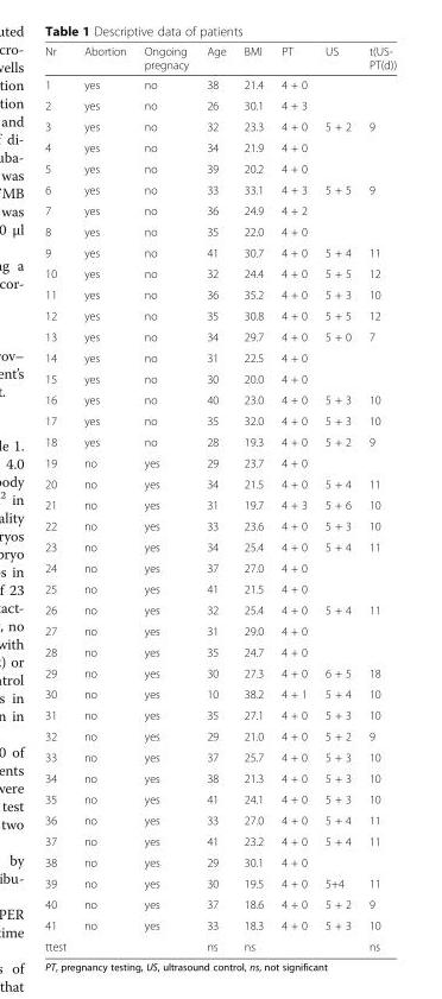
<table><thead><tr><td>Nr</td><td>Abortion</td><td>Ongoing pregnacy</td><td>Age</td><td>BMI</td><td>PT</td><td>US</td><td>t(US- PT(d))</td></tr></thead><tbody><tr><td>1</td><td>yes</td><td>no</td><td>38</td><td>21.4</td><td>4 + 0</td><td></td><td></td></tr><tr><td>2</td><td>yes</td><td>no</td><td>26</td><td>30.1</td><td>4 + 3</td><td></td><td></td></tr><tr><td>3</td><td>yes</td><td>no</td><td>32</td><td>23.3</td><td>4 + 0</td><td>5 + 2</td><td>9</td></tr><tr><td>4</td><td>yes</td><td>no</td><td>34</td><td>21.9</td><td>4 + 0</td><td></td><td></td></tr><tr><td>5</td><td>yes</td><td>no</td><td>39</td><td>20.2</td><td>4 + 0</td><td></td><td></td></tr><tr><td>6</td><td>yes</td><td>no</td><td>33</td><td>33.1</td><td>4 + 3</td><td>5 + 5</td><td>9</td></tr><tr><td>7</td><td>yes</td><td>no</td><td>36</td><td>24.9</td><td>4 + 2</td><td></td><td></td></tr><tr><td>8</td><td>yes</td><td>no</td><td>35</td><td>22.0</td><td>4 + 0</td><td></td><td></td></tr><tr><td>9</td><td>yes</td><td>no</td><td>41</td><td>30.7</td><td>4 + 0</td><td>5 + 4</td><td>11</td></tr><tr><td>10</td><td>yes</td><td>no</td><td>32</td><td>24.4</td><td>4 + 0</td><td>5 + 5</td><td>12</td></tr><tr><td>11</td><td>yes</td><td>no</td><td>36</td><td>35.2</td><td>4 + 0</td><td>5 + 3</td><td>10</td></tr><tr><td>12</td><td>yes</td><td>no</td><td>35</td><td>30.8</td><td>4 + 0</td><td>5 + 5</td><td>12</td></tr><tr><td>13</td><td>yes</td><td>no</td><td>34</td><td>29.7</td><td>4 + 0</td><td>5 + 0</td><td>7</td></tr><tr><td>14</td><td>yes</td><td>no</td><td>31</td><td>22.5</td><td>4 + 0</td><td></td><td></td></tr><tr><td>15</td><td>yes</td><td>no</td><td>30</td><td>20.0</td><td>4 + 0</td><td></td><td></td></tr><tr><td>16</td><td>yes</td><td>no</td><td>40</td><td>23.0</td><td>4 + 0</td><td>5 + 3</td><td>10</td></tr><tr><td>17</td><td>yes</td><td>no</td><td>35</td><td>32.0</td><td>4 + 0</td><td>5 + 3</td><td>10</td></tr><tr><td>18</td><td>yes</td><td>no</td><td>28</td><td>19.3</td><td>4 + 0</td><td>5 + 2</td><td>9</td></tr><tr><td>19</td><td>no</td><td>yes</td><td>29</td><td>23.7</td><td>4 + 0</td><td></td><td></td></tr><tr><td>20</td><td>no</td><td>yes</td><td>34</td><td>21.5</td><td>4 + 0</td><td>5 + 4</td><td>11</td></tr><tr><td>21</td><td>no</td><td>yes</td><td>31</td><td>19.7</td><td>4 + 3</td><td>5 + 6</td><td>10</td></tr><tr><td>22</td><td>no</td><td>yes</td><td>33</td><td>23.6</td><td>4 + 0</td><td>5 + 3</td><td>10</td></tr><tr><td>23</td><td>no</td><td>yes</td><td>34</td><td>25.4</td><td>4 + 0</td><td>5 + 4</td><td>11</td></tr><tr><td>24</td><td>no</td><td>yes</td><td>37</td><td>27.0</td><td>4 + 0</td><td></td><td></td></tr><tr><td>25</td><td>no</td><td>yes</td><td>41</td><td>21.5</td><td>4 + 0</td><td></td><td></td></tr><tr><td>26</td><td>no</td><td>yes</td><td>32</td><td>25.4</td><td>4 + 0</td><td>5 + 4</td><td>11</td></tr><tr><td>27</td><td>no</td><td>yes</td><td>31</td><td>29.0</td><td>4 + 0</td><td></td><td></td></tr><tr><td>28</td><td>no</td><td>yes</td><td>35</td><td>24.7</td><td>4 + 0</td><td></td><td></td></tr><tr><td>29</td><td>no</td><td>yes</td><td>30</td><td>27.3</td><td>4 + 0</td><td>6 + 5</td><td>18</td></tr><tr><td>30</td><td>no</td><td>yes</td><td>10</td><td>38.2</td><td>4 + 1</td><td>5 + 4</td><td>10</td></tr><tr><td>31</td><td>no</td><td>yes</td><td>35</td><td>27.1</td><td>4 + 0</td><td>5 + 3</td><td>10</td></tr><tr><td>32</td><td>no</td><td>yes</td><td>29</td><td>21.0</td><td>4 + 0</td><td>5 + 2</td><td>9</td></tr><tr><td>33</td><td>no</td><td>yes</td><td>37</td><td>25.7</td><td>4 + 0</td><td>5 + 3</td><td>10</td></tr><tr><td>34</td><td>no</td><td>yes</td><td>38</td><td>21.3</td><td>4 + 0</td><td>5 + 3</td><td>10</td></tr><tr><td>35</td><td>no</td><td>yes</td><td>41</td><td>24.1</td><td>4 + 0</td><td>5 + 3</td><td>10</td></tr><tr><td>36</td><td>no</td><td>yes</td><td>33</td><td>27.0</td><td>4 + 0</td><td>5 + 4</td><td>11</td></tr><tr><td>37</td><td>no</td><td>yes</td><td>41</td><td>23.2</td><td>4 + 0</td><td>5 + 4</td><td>11</td></tr><tr><td>38</td><td>no</td><td>yes</td><td>29</td><td>30.1</td><td>4 + 0</td><td></td><td></td></tr><tr><td>39</td><td>no</td><td>yes</td><td>30</td><td>19.5</td><td>4 + 0</td><td>5+4</td><td>11</td></tr><tr><td>40</td><td>no</td><td>yes</td><td>37</td><td>18.6</td><td>4 + 0</td><td>5 + 2</td><td>9</td></tr><tr><td>41</td><td>no</td><td>yes</td><td>33</td><td>18.3</td><td>4 + 0</td><td>5 + 3</td><td>10</td></tr><tr><td>ttest</td><td></td><td></td><td>ns</td><td>ns</td><td></td><td></td><td>ns</td></tr></tbody></table>